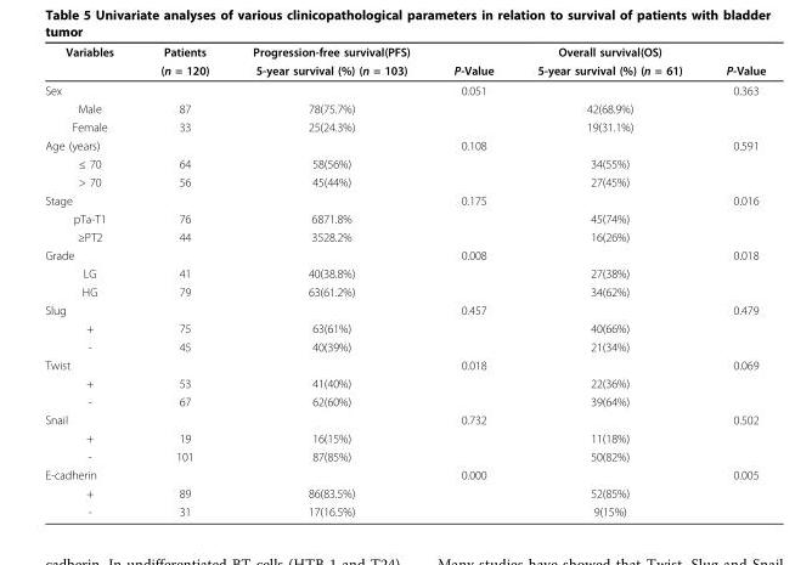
<table><thead><tr><td rowspan="2">Variables</td><td rowspan="2">Patients (n = 120)</td><td rowspan="2">Progression-free survival(PFS) 5-year survival (%) (n = 103)</td><td rowspan="2">P-Value</td><td rowspan="2">Overall survival(OS) 5-year survival (%) (n = 61)</td><td rowspan="2">P-Value</td></tr><tr></tr></thead><tbody><tr><td>Sex</td><td></td><td></td><td>0.051</td><td></td><td>0.363</td></tr><tr><td>Male</td><td>87</td><td>78(75.7%)</td><td></td><td>42(68.9%)</td><td></td></tr><tr><td>Female</td><td>33</td><td>25(24.3%)</td><td></td><td>19(31.1%)</td><td></td></tr><tr><td>Age (years)</td><td></td><td></td><td>0.108</td><td></td><td>0.591</td></tr><tr><td>≤ 70</td><td>64</td><td>58(56%)</td><td></td><td>34(55%)</td><td></td></tr><tr><td>&gt; 70</td><td>56</td><td>45(44%)</td><td></td><td>27(45%)</td><td></td></tr><tr><td>Stage</td><td></td><td></td><td>0.175</td><td></td><td>0.016</td></tr><tr><td>pTa-T1</td><td>76</td><td>6871.8%</td><td></td><td>45(74%)</td><td></td></tr><tr><td>≥PT2</td><td>44</td><td>3528.2%</td><td></td><td>16(26%)</td><td></td></tr><tr><td>Grade</td><td></td><td></td><td>0.008</td><td></td><td>0.018</td></tr><tr><td>LG</td><td>41</td><td>40(38.8%)</td><td></td><td>27(38%)</td><td></td></tr><tr><td>HG</td><td>79</td><td>63(61.2%)</td><td></td><td>34(62%)</td><td></td></tr><tr><td>Slug</td><td></td><td></td><td>0.457</td><td></td><td>0.479</td></tr><tr><td>+</td><td>75</td><td>63(61%)</td><td></td><td>40(66%)</td><td></td></tr><tr><td>-</td><td>45</td><td>40(39%)</td><td></td><td>21(34%)</td><td></td></tr><tr><td>Twist</td><td></td><td></td><td>0.018</td><td></td><td>0.069</td></tr><tr><td>+</td><td>53</td><td>41(40%)</td><td></td><td>22(36%)</td><td></td></tr><tr><td>-</td><td>67</td><td>62(60%)</td><td></td><td>39(64%)</td><td></td></tr><tr><td>Snail</td><td></td><td></td><td>0.732</td><td></td><td>0.502</td></tr><tr><td>+</td><td>19</td><td>16(15%)</td><td></td><td>11(18%)</td><td></td></tr><tr><td>-</td><td>101</td><td>87(85%)</td><td></td><td>50(82%)</td><td></td></tr><tr><td>E-cadherin</td><td></td><td></td><td>0.000</td><td></td><td>0.005</td></tr><tr><td>+</td><td>89</td><td>86(83.5%)</td><td></td><td>52(85%)</td><td></td></tr><tr><td>-</td><td>31</td><td>17(16.5%)</td><td></td><td>9(15%)</td><td></td></tr></tbody></table>